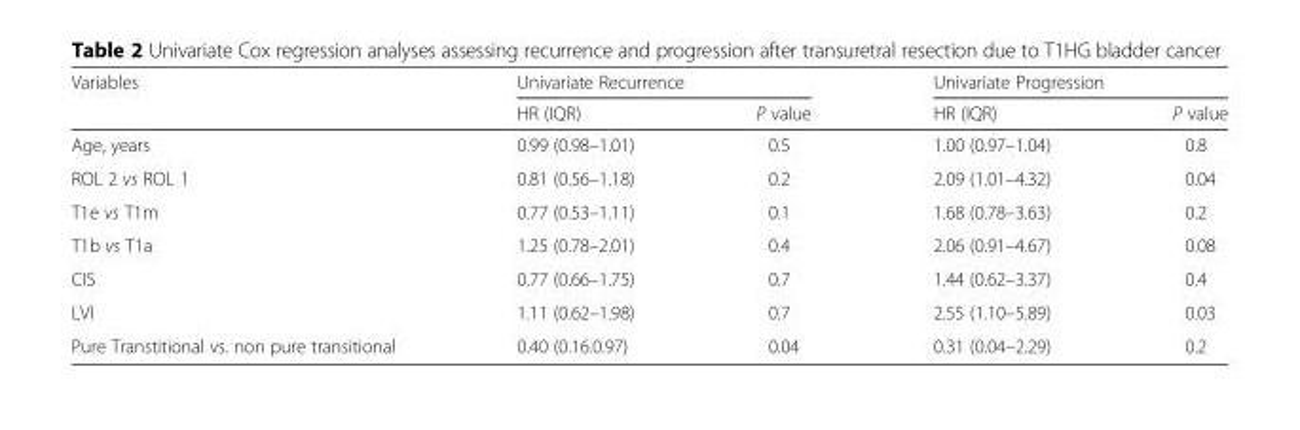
<table><thead><tr><td rowspan="2">Variables</td><td colspan="2">Univariate Recurrence</td><td colspan="2">Univariate Progression</td></tr><tr><td>HR (IQR)</td><td>P value</td><td>HR (IQR)</td><td>P value</td></tr></thead><tbody><tr><td>Age, years</td><td>0.99 (0.98–1.01)</td><td>0.5</td><td>1.00 (0.97–1.04)</td><td>0.8</td></tr><tr><td>ROL 2 vs ROL 1</td><td>0.81 (0.56–1.18)</td><td>0.2</td><td>2.09 (1.01–4.32)</td><td>0.04</td></tr><tr><td>T1e vs T1m</td><td>0.77 (0.53–1.11)</td><td>0.1</td><td>1.68 (0.78–3.63)</td><td>0.2</td></tr><tr><td>T1b vs T1a</td><td>1.25 (0.78–2.01)</td><td>0.4</td><td>2.06 (0.91–4.67)</td><td>0.08</td></tr><tr><td>CIS</td><td>0.77 (0.66–1.75)</td><td>0.7</td><td>1.44 (0.62–3.37)</td><td>0.4</td></tr><tr><td>LVI</td><td>1.11 (0.62–1.98)</td><td>0.7</td><td>2.55 (1.10–5.89)</td><td>0.03</td></tr><tr><td>Pure Transtitional vs. non pure transitional</td><td>0.40 (0.16.0.97)</td><td>0.04</td><td>0.31 (0.04–2.29)</td><td>0.2</td></tr></tbody></table>